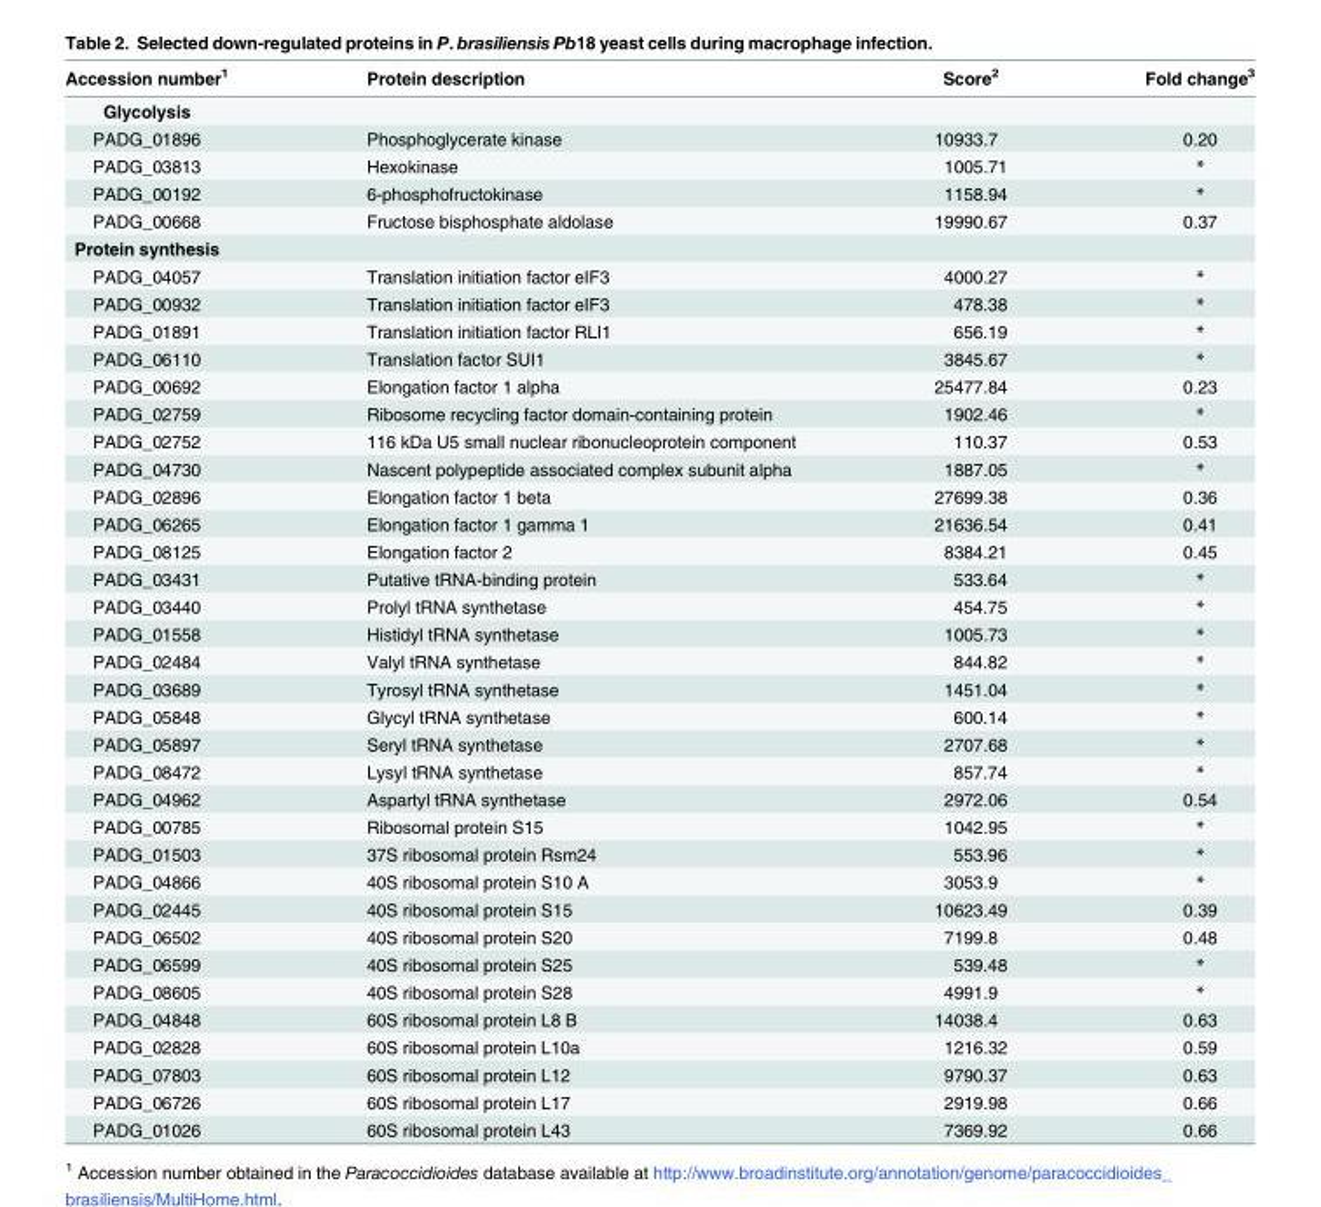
<table><thead><tr><td>Accession number<sup>1</sup></td><td>Protein description</td><td>Score<sup>2</sup></td><td>Fold change<sup>3</sup></td></tr></thead><tbody><tr><td colspan="4">Glycolysis</td></tr><tr><td>PADG_01896</td><td>Phosphoglycerate kinase</td><td>10933.7</td><td>0.20</td></tr><tr><td>PADG_03813</td><td>Hexokinase</td><td>1005.71</td><td>*</td></tr><tr><td>PADG_00192</td><td>6-phosphofructokinase</td><td>1158.94</td><td>*</td></tr><tr><td>PADG_00668</td><td>Fructose bisphosphate aldolase</td><td>19990.67</td><td>0.37</td></tr><tr><td colspan="4">Protein synthesis</td></tr><tr><td>PADG_04057</td><td>Translation initiation factor eIF3</td><td>4000.27</td><td>*</td></tr><tr><td>PADG_00932</td><td>Translation initiation factor eIF3</td><td>478.38</td><td>*</td></tr><tr><td>PADG_01891</td><td>Translation initiation factor RLI1</td><td>656.19</td><td>*</td></tr><tr><td>PADG_06110</td><td>Translation factor SUI1</td><td>3845.67</td><td>*</td></tr><tr><td>PADG_00692</td><td>Elongation factor 1 alpha</td><td>25477.84</td><td>0.23</td></tr><tr><td>PADG_02759</td><td>Ribosome recycling factor domain-containing protein</td><td>1902.46</td><td>*</td></tr><tr><td>PADG_02752</td><td>116 kDa U5 small nuclear ribonucleoprotein component</td><td>110.37</td><td>0.53</td></tr><tr><td>PADG_04730</td><td>Nascent polypeptide associated complex subunit alpha</td><td>1887.05</td><td>*</td></tr><tr><td>PADG_02896</td><td>Elongation factor 1 beta</td><td>27699.38</td><td>0.36</td></tr><tr><td>PADG_06265</td><td>Elongation factor 1 gamma 1</td><td>21636.54</td><td>0.41</td></tr><tr><td>PADG_08125</td><td>Elongation factor 2</td><td>8384.21</td><td>0.45</td></tr><tr><td>PADG_03431</td><td>Putative tRNA-binding protein</td><td>533.64</td><td>*</td></tr><tr><td>PADG_03440</td><td>Prolyl tRNA synthetase</td><td>454.75</td><td>*</td></tr><tr><td>PADG_01558</td><td>Histidyl tRNA synthetase</td><td>1005.73</td><td>*</td></tr><tr><td>PADG_02484</td><td>Valyl tRNA synthetase</td><td>844.82</td><td>*</td></tr><tr><td>PADG_03689</td><td>Tyrosyl tRNA synthetase</td><td>1451.04</td><td>*</td></tr><tr><td>PADG_05848</td><td>Glycyl tRNA synthetase</td><td>600.14</td><td>*</td></tr><tr><td>PADG_05897</td><td>Seryl tRNA synthetase</td><td>2707.68</td><td>*</td></tr><tr><td>PADG_08472</td><td>Lysyl tRNA synthetase</td><td>857.74</td><td>*</td></tr><tr><td>PADG_04962</td><td>Aspartyl tRNA synthetase</td><td>2972.06</td><td>0.54</td></tr><tr><td>PADG_00785</td><td>Ribosomal protein S15</td><td>1042.95</td><td>*</td></tr><tr><td>PADG_01503</td><td>37S ribosomal protein Rsm24</td><td>553.96</td><td>*</td></tr><tr><td>PADG_04866</td><td>40S ribosomal protein S10 A</td><td>3053.9</td><td>*</td></tr><tr><td>PADG_02445</td><td>40S ribosomal protein S15</td><td>10623.49</td><td>0.39</td></tr><tr><td>PADG_06502</td><td>40S ribosomal protein S20</td><td>7199.8</td><td>0.48</td></tr><tr><td>PADG_06599</td><td>40S ribosomal protein S25</td><td>539.48</td><td>*</td></tr><tr><td>PADG_08605</td><td>40S ribosomal protein S28</td><td>4991.9</td><td>*</td></tr><tr><td>PADG_04848</td><td>60S ribosomal protein L8 B</td><td>14038.4</td><td>0.63</td></tr><tr><td>PADG_02828</td><td>60S ribosomal protein L10a</td><td>1216.32</td><td>0.59</td></tr><tr><td>PADG_07803</td><td>60S ribosomal protein L12</td><td>9790.37</td><td>0.63</td></tr><tr><td>PADG_06726</td><td>60S ribosomal protein L17</td><td>2919.98</td><td>0.66</td></tr><tr><td>PADG_01026</td><td>60S ribosomal protein L43</td><td>7369.92</td><td>0.66</td></tr></tbody></table>